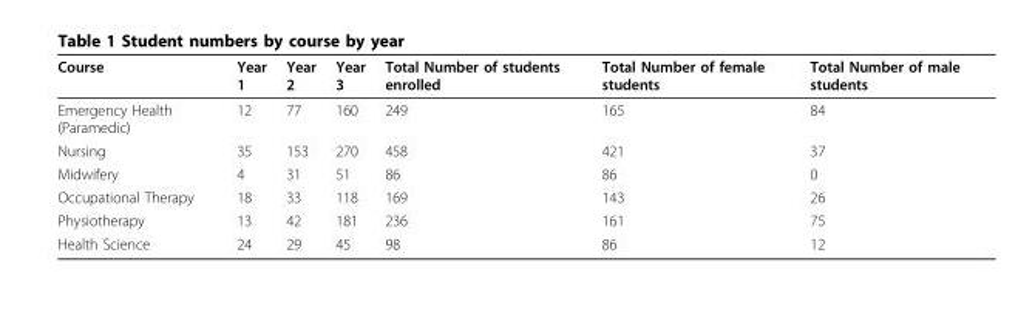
<table><thead><tr><td>Course</td><td>Year 1</td><td>Year 2</td><td>Year 3</td><td>Total Number of students enrolled</td><td>Total Number of female students</td><td>Total Number of male students</td></tr></thead><tbody><tr><td>Emergency Health (Paramedic)</td><td>12</td><td>77</td><td>160</td><td>249</td><td>165</td><td>84</td></tr><tr><td>Nursing</td><td>35</td><td>153</td><td>270</td><td>458</td><td>421</td><td>37</td></tr><tr><td>Midwifery</td><td>4</td><td>31</td><td>51</td><td>86</td><td>86</td><td>0</td></tr><tr><td>Occupational Therapy</td><td>18</td><td>33</td><td>118</td><td>169</td><td>143</td><td>26</td></tr><tr><td>Physiotherapy</td><td>13</td><td>42</td><td>181</td><td>236</td><td>161</td><td>75</td></tr><tr><td>Health Science</td><td>24</td><td>29</td><td>45</td><td>98</td><td>86</td><td>12</td></tr></tbody></table>